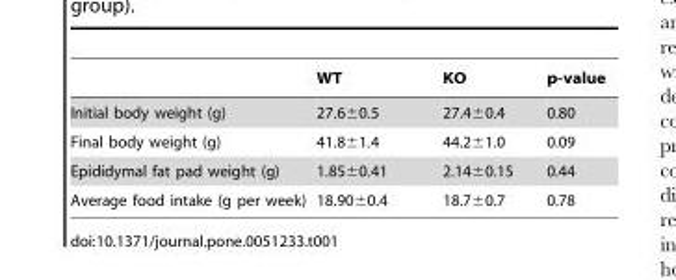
<table><thead><tr><td></td><td>WT</td><td>KO</td><td>p-value</td></tr></thead><tbody><tr><td>Initial body weight (g)</td><td>27.6±0.5</td><td>27.4±0.4</td><td>0.80</td></tr><tr><td>Final body weight (g)</td><td>41.8±1.4</td><td>44.2±1.0</td><td>0.09</td></tr><tr><td>Epididymal fat pad weight (g)</td><td>1.85±0.41</td><td>2.14±0.15</td><td>0.44</td></tr><tr><td>Average food intake (g per week)</td><td>18.90±0.4</td><td>18.7±0.7</td><td>0.78</td></tr></tbody></table>